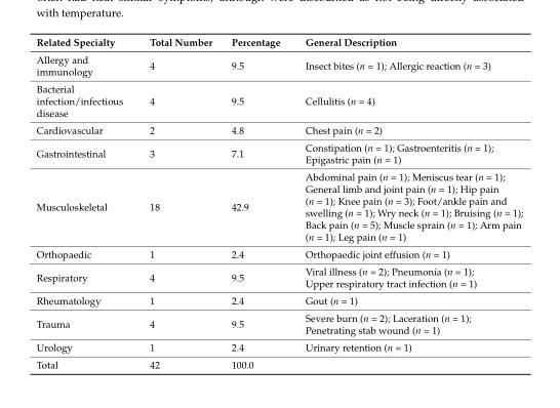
<table><thead><tr><td>Related Specialty</td><td>Total Number</td><td>Percentage</td><td>General Description</td></tr></thead><tbody><tr><td>Allergy and immunology</td><td>4</td><td>9.5</td><td>Insect bites (n = 1); Allergic reaction (n = 3)</td></tr><tr><td>Bacterial infection/infectious disease</td><td>4</td><td>9.5</td><td>Cellulitis (n = 4)</td></tr><tr><td>Cardiovascular</td><td>2</td><td>4.8</td><td>Chest pain (n = 2)</td></tr><tr><td>Gastrointestinal</td><td>3</td><td>7.1</td><td>Constipation (n = 1); Gastroenteritis (n = 1); Epigastric pain (n = 1)</td></tr><tr><td>Musculoskeletal</td><td>18</td><td>42.9</td><td>Abdominal pain (n = 1); Meniscus tear (n = 1); General limb and joint pain (n = 1); Hip pain (n = 1); Knee pain (n = 3); Foot/ankle pain and swelling (n = 1); Wry neck (n = 1); Bruising (n = 1); Back pain (n = 5); Muscle sprain (n = 1); Arm pain (n = 1); Leg pain (n = 1)</td></tr><tr><td>Orthopaedic</td><td>1</td><td>2.4</td><td>Orthopaedic joint effusion (n = 1)</td></tr><tr><td>Respiratory</td><td>4</td><td>9.5</td><td>Viral illness (n = 2); Pneumonia (n = 1); Upper respiratory tract infection (n = 1)</td></tr><tr><td>Rheumatology</td><td>1</td><td>2.4</td><td>Gout (n = 1)</td></tr><tr><td>Trauma</td><td>4</td><td>9.5</td><td>Severe burn (n = 2); Laceration (n = 1); Penetrating stab wound (n = 1)</td></tr><tr><td>Urology</td><td>1</td><td>2.4</td><td>Urinary retention (n = 1)</td></tr><tr><td>Total</td><td>42</td><td>100.0</td><td></td></tr></tbody></table>